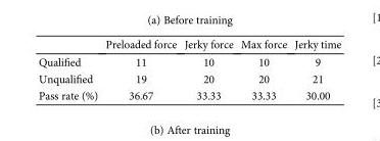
<table><thead><tr><td></td><td>Preloaded force</td><td>Jerky force</td><td>Max force</td><td>Jerky time</td></tr></thead><tbody><tr><td>Qualified</td><td>11</td><td>10</td><td>10</td><td>9</td></tr><tr><td>Unqualified</td><td>19</td><td>20</td><td>20</td><td>21</td></tr><tr><td>Pass rate (%)</td><td>36.67</td><td>33.33</td><td>33.33</td><td>30.00</td></tr></tbody></table>